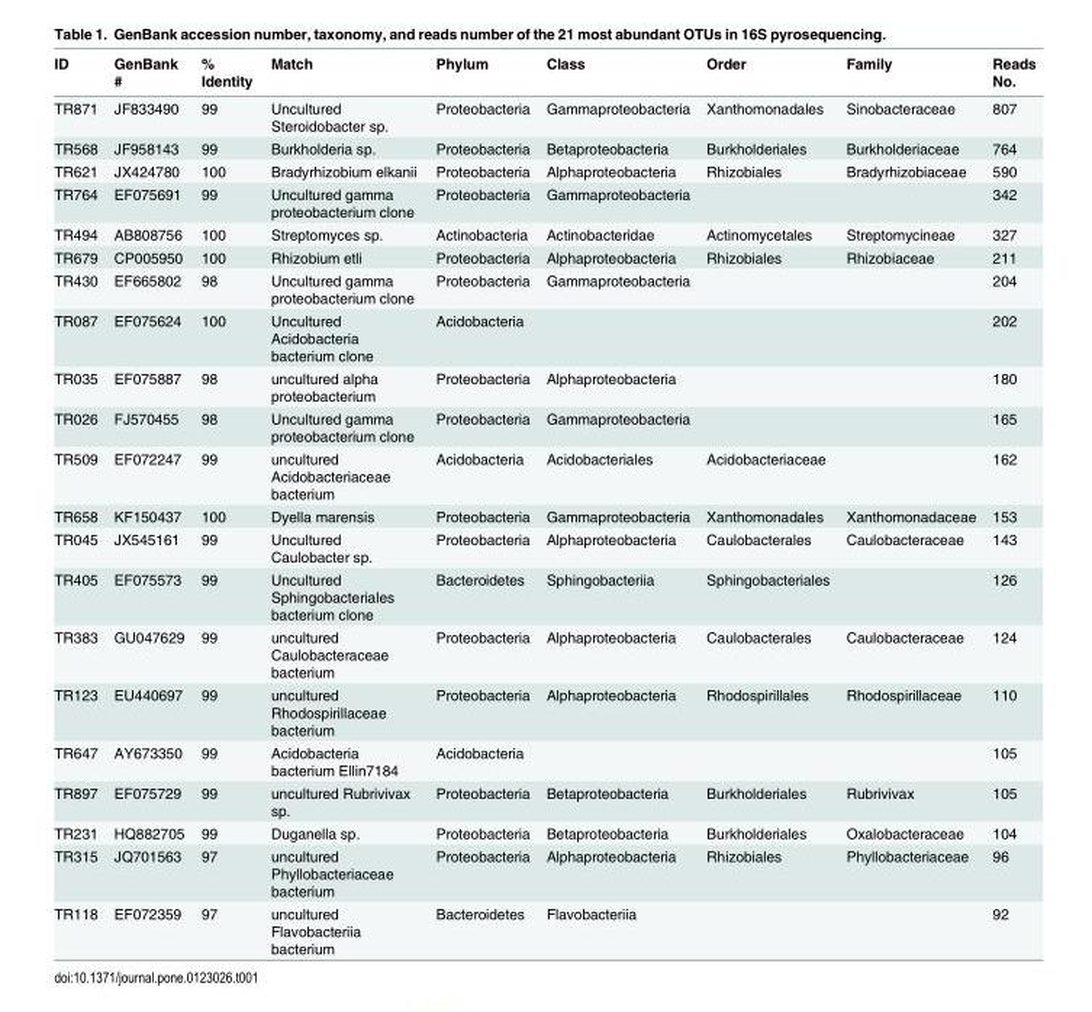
<table><thead><tr><td>ID</td><td>GenBank #</td><td>% Identity</td><td>Match</td><td>Phylum</td><td>Class</td><td>Order</td><td>Family</td><td>Reads No.</td></tr></thead><tbody><tr><td>TR871</td><td>JF833490</td><td>99</td><td>Uncultured Steroidobacter sp.</td><td>Proteobacteria</td><td>Gammaproteobacteria</td><td>Xanthomonadales</td><td>Sinobacteraceae</td><td>807</td></tr><tr><td>TR568</td><td>JF958143</td><td>99</td><td>Burkholderia sp.</td><td>Proteobacteria</td><td>Betaproteobacteria</td><td>Burkholderiales</td><td>Burkholderiaceae</td><td>764</td></tr><tr><td>TR621</td><td>JX424780</td><td>100</td><td>Bradyrhizobium elkanii</td><td>Proteobacteria</td><td>Alphaproteobacteria</td><td>Rhizobiales</td><td>Bradyrhizobiaceae</td><td>590</td></tr><tr><td>TR764</td><td>EF075691</td><td>99</td><td>Uncultured gamma proteobacterium clone</td><td>Proteobacteria</td><td>Gammaproteobacteria</td><td></td><td></td><td>342</td></tr><tr><td>TR494</td><td>AB808756</td><td>100</td><td>Streptomyces sp.</td><td>Actinobacteria</td><td>Actinobacteridae</td><td>Actinomycetales</td><td>Streptomycineae</td><td>327</td></tr><tr><td>TR679</td><td>CP005950</td><td>100</td><td>Rhizobium etli</td><td>Proteobacteria</td><td>Alphaproteobacteria</td><td>Rhizobiales</td><td>Rhizobiaceae</td><td>211</td></tr><tr><td>TR430</td><td>EF665802</td><td>98</td><td>Uncultured gamma proteobacterium clone</td><td>Proteobacteria</td><td>Gammaproteobacteria</td><td></td><td></td><td>204</td></tr><tr><td>TR087</td><td>EF075624</td><td>100</td><td>Uncultured Acidobacteria bacterium clone</td><td>Acidobacteria</td><td></td><td></td><td></td><td>202</td></tr><tr><td>TR035</td><td>EF075887</td><td>98</td><td>uncultured alpha proteobacterium</td><td>Proteobacteria</td><td>Alphaproteobacteria</td><td></td><td></td><td>180</td></tr><tr><td>TR026</td><td>FJ570455</td><td>98</td><td>Uncultured gamma proteobacterium clone</td><td>Proteobacteria</td><td>Gammaproteobacteria</td><td></td><td></td><td>165</td></tr><tr><td>TR509</td><td>EF072247</td><td>99</td><td>uncultured Acidobacteriaceae bacterium</td><td>Acidobacteria</td><td>Acidobacteriales</td><td>Acidobacteriaceae</td><td></td><td>162</td></tr><tr><td>TR658</td><td>KF150437</td><td>100</td><td>Dyella marensis</td><td>Proteobacteria</td><td>Gammaproteobacteria</td><td>Xanthomonadales</td><td>Xanthomonadaceae</td><td>153</td></tr><tr><td>TR045</td><td>JX545161</td><td>99</td><td>Uncultured Caulobacter sp.</td><td>Proteobacteria</td><td>Alphaproteobacteria</td><td>Caulobacterales</td><td>Caulobacteraceae</td><td>143</td></tr><tr><td>TR405</td><td>EF075573</td><td>99</td><td>Uncultured Sphingobacteriales bacterium clone</td><td>Bacteroidetes</td><td>Sphingobacteriia</td><td>Sphingobacteriales</td><td></td><td>126</td></tr><tr><td>TR383</td><td>GU047629</td><td>99</td><td>uncultured Caulobacteraceae bacterium</td><td>Proteobacteria</td><td>Alphaproteobacteria</td><td>Caulobacterales</td><td>Caulobacteraceae</td><td>124</td></tr><tr><td>TR123</td><td>EU440697</td><td>99</td><td>uncultured Rhodospirillaceae bacterium</td><td>Proteobacteria</td><td>Alphaproteobacteria</td><td>Rhodospirillales</td><td>Rhodospirillaceae</td><td>110</td></tr><tr><td>TR647</td><td>AY673350</td><td>99</td><td>Acidobacteria bacterium Ellin7184</td><td>Acidobacteria</td><td></td><td></td><td></td><td>105</td></tr><tr><td>TR897</td><td>EF075729</td><td>99</td><td>uncultured Rubrivivax sp.</td><td>Proteobacteria</td><td>Betaproteobacteria</td><td>Burkholderiales</td><td>Rubrivivax</td><td>105</td></tr><tr><td>TR231</td><td>HQ882705</td><td>99</td><td>Duganella sp.</td><td>Proteobacteria</td><td>Betaproteobacteria</td><td>Burkholderiales</td><td>Oxalobacteraceae</td><td>104</td></tr><tr><td>TR315</td><td>JQ701563</td><td>97</td><td>uncultured Phyllobacteriaceae bacterium</td><td>Proteobacteria</td><td>Alphaproteobacteria</td><td>Rhizobiales</td><td>Phyllobacteriaceae</td><td>96</td></tr><tr><td>TR118</td><td>EF072359</td><td>97</td><td>uncultured Flavobacteriia bacterium</td><td>Bacteroidetes</td><td>Flavobacteriia</td><td></td><td></td><td>92</td></tr></tbody></table>